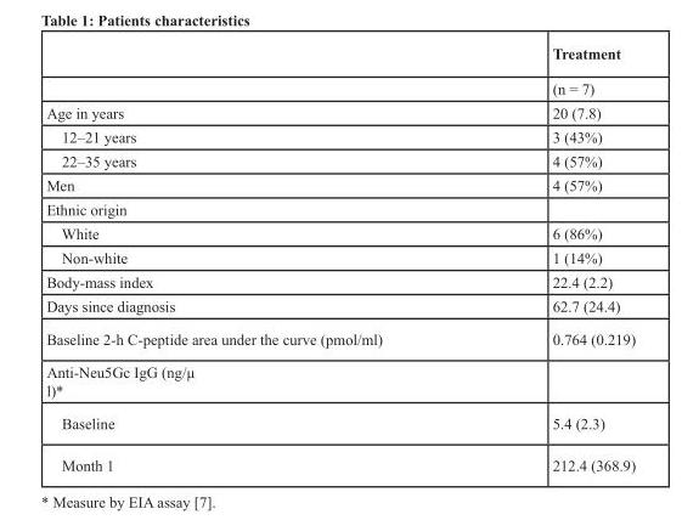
<table><thead><tr><td></td><td>Treatment</td></tr></thead><tbody><tr><td></td><td>(n = 7)</td></tr><tr><td>Age in years</td><td>20 (7.8)</td></tr><tr><td>12–21 years</td><td>3 (43%)</td></tr><tr><td>22–35 years</td><td>4 (57%)</td></tr><tr><td>Men</td><td>4 (57%)</td></tr><tr><td colspan="2">Ethnic origin</td></tr><tr><td>White</td><td>6 (86%)</td></tr><tr><td>Non-white</td><td>1 (14%)</td></tr><tr><td>Body-mass index</td><td>22.4 (2.2)</td></tr><tr><td>Days since diagnosis</td><td>62.7 (24.4)</td></tr><tr><td>Baseline 2-h C-peptide area under the curve (pmol/ml)</td><td>0.764 (0.219)</td></tr><tr><td colspan="2">Anti-Neu5Gc IgG (ng/μ l)*</td></tr><tr><td>Baseline</td><td>5.4 (2.3)</td></tr><tr><td>Month 1</td><td>212.4 (368.9)</td></tr></tbody></table>